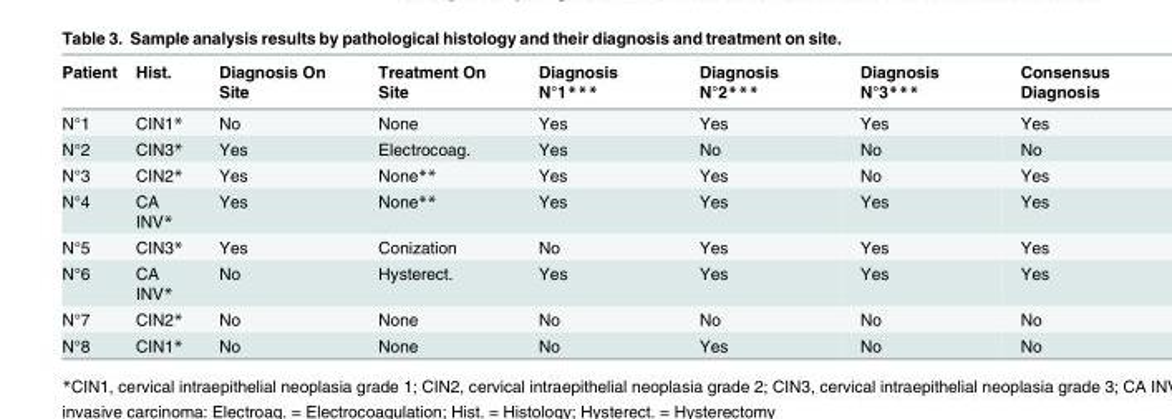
<table><thead><tr><td>Patient</td><td>Hist.</td><td>Diagnosis On Site</td><td>Treatment On Site</td><td>Diagnosis N°1***</td><td>Diagnosis N°2***</td><td>Diagnosis N°3***</td><td>Consensus Diagnosis</td></tr></thead><tbody><tr><td>N°1</td><td>CIN1*</td><td>No</td><td>None</td><td>Yes</td><td>Yes</td><td>Yes</td><td>Yes</td></tr><tr><td>N°2</td><td>CIN3*</td><td>Yes</td><td>Electrocoag.</td><td>Yes</td><td>No</td><td>No</td><td>No</td></tr><tr><td>N°3</td><td>CIN2*</td><td>Yes</td><td>None**</td><td>Yes</td><td>Yes</td><td>No</td><td>Yes</td></tr><tr><td>N°4</td><td>CA INV*</td><td>Yes</td><td>None**</td><td>Yes</td><td>Yes</td><td>Yes</td><td>Yes</td></tr><tr><td>N°5</td><td>CIN3*</td><td>Yes</td><td>Conization</td><td>No</td><td>Yes</td><td>Yes</td><td>Yes</td></tr><tr><td>N°6</td><td>CA INV*</td><td>No</td><td>Hysterect.</td><td>Yes</td><td>Yes</td><td>Yes</td><td>Yes</td></tr><tr><td>N°7</td><td>CIN2*</td><td>No</td><td>None</td><td>No</td><td>No</td><td>No</td><td>No</td></tr><tr><td>N°8</td><td>CIN1*</td><td>No</td><td>None</td><td>No</td><td>Yes</td><td>No</td><td>No</td></tr></tbody></table>